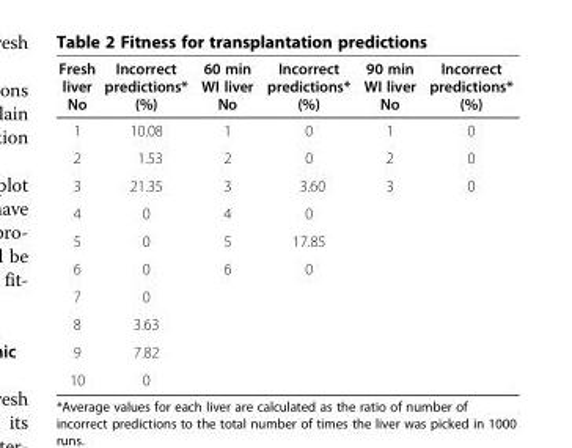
<table><thead><tr><td>Fresh liver No</td><td>Incorrect predictions* (%)</td><td>60 min WI liver No</td><td>Incorrect predictions* (%)</td><td>90 min WI liver No</td><td>Incorrect predictions* (%)</td></tr></thead><tbody><tr><td>1</td><td>10.08</td><td>1</td><td>0</td><td>1</td><td>0</td></tr><tr><td>2</td><td>1.53</td><td>2</td><td>0</td><td>2</td><td>0</td></tr><tr><td>3</td><td>21.35</td><td>3</td><td>3.60</td><td>3</td><td>0</td></tr><tr><td>4</td><td>0</td><td>4</td><td>0</td><td></td><td></td></tr><tr><td>5</td><td>0</td><td>5</td><td>17.85</td><td></td><td></td></tr><tr><td>6</td><td>0</td><td>6</td><td>0</td><td></td><td></td></tr><tr><td>7</td><td>0</td><td></td><td></td><td></td><td></td></tr><tr><td>8</td><td>3.63</td><td></td><td></td><td></td><td></td></tr><tr><td>9</td><td>7.82</td><td></td><td></td><td></td><td></td></tr><tr><td>10</td><td>0</td><td></td><td></td><td></td><td></td></tr></tbody></table>